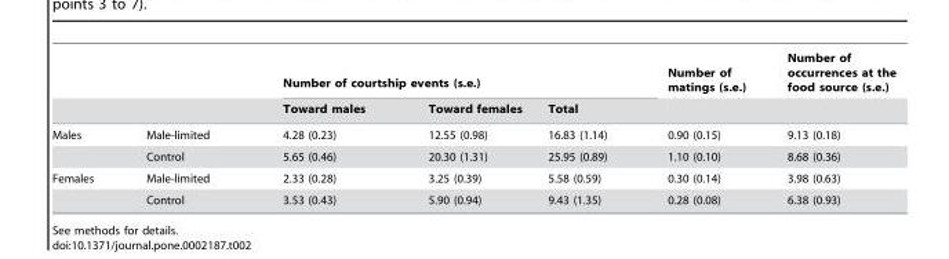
<table><thead><tr><td rowspan="2"></td><td rowspan="2"></td><td colspan="3">Number of courtship events (s.e.)</td><td rowspan="2">Number of matings (s.e.)</td><td rowspan="2">Number of occurrences at the food source (s.e.)</td></tr><tr><td>Toward males</td><td>Toward females</td><td>Total</td></tr></thead><tbody><tr><td rowspan="2">Males</td><td>Male-limited</td><td>4.28 (0.23)</td><td>12.55 (0.98)</td><td>16.83 (1.14)</td><td>0.90 (0.15)</td><td>9.13 (0.18)</td></tr><tr><td>Control</td><td>5.65 (0.46)</td><td>20.30 (1.31)</td><td>25.95 (0.89)</td><td>1.10 (0.10)</td><td>8.68 (0.36)</td></tr><tr><td rowspan="2">Females</td><td>Male-limited</td><td>2.33 (0.28)</td><td>3.25 (0.39)</td><td>5.58 (0.59)</td><td>0.30 (0.14)</td><td>3.98 (0.63)</td></tr><tr><td>Control</td><td>3.53 (0.43)</td><td>5.90 (0.94)</td><td>9.43 (1.35)</td><td>0.28 (0.08)</td><td>6.38 (0.93)</td></tr></tbody></table>